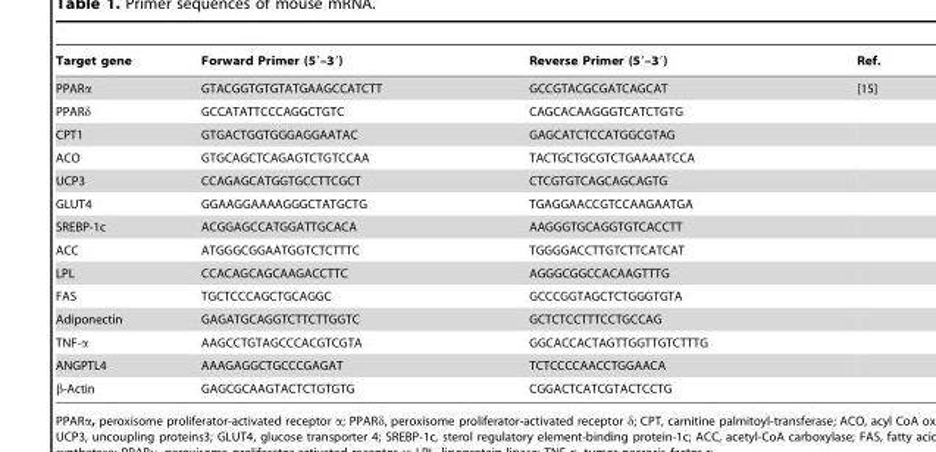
<table><thead><tr><td>Target gene</td><td>Forward Primer (5′–3′)</td><td>Reverse Primer (5′–3′)</td><td>Ref.</td></tr></thead><tbody><tr><td>PPARα</td><td>GTACGGTGTGTATGAAGCCATCTT</td><td>GCCGTACGCGATCAGCAT</td><td>[15]</td></tr><tr><td>PPARδ</td><td>GCCATATTCCCAGGCTGTC</td><td>CAGCACAAGGGTCATCTGTG</td><td></td></tr><tr><td>CPT1</td><td>GTGACTGGTGGGAGGAATAC</td><td>GAGCATCTCCATGGCGTAG</td><td></td></tr><tr><td>ACO</td><td>GTGCAGCTCAGAGTCTGTCCAA</td><td>TACTGCTGCGTCTGAAAATCCA</td><td></td></tr><tr><td>UCP3</td><td>CCAGAGCATGGTGCCTTCGCT</td><td>CTCGTGTCAGCAGCAGTG</td><td></td></tr><tr><td>GLUT4</td><td>GGAAGGAAAAGGGCTATGCTG</td><td>TGAGGAACCGTCCAAGAATGA</td><td></td></tr><tr><td>SREBP-1c</td><td>ACGGAGCCATGGATTGCACA</td><td>AAGGGTGCAGGTGTCACCTT</td><td></td></tr><tr><td>ACC</td><td>ATGGGCGGAATGGTCTCTTTC</td><td>TGGGGACCTTGTCTTCATCAT</td><td></td></tr><tr><td>LPL</td><td>CCACAGCAGCAAGACCTTC</td><td>AGGGCGGCCACAAGTTTG</td><td></td></tr><tr><td>FAS</td><td>TGCTCCCAGCTGCAGGC</td><td>GCCCGGTAGCTCTGGGTGTA</td><td></td></tr><tr><td>Adiponectin</td><td>GAGATGCAGGTCTTCTTGGTC</td><td>GCTCTCCTTTCCTGCCAG</td><td></td></tr><tr><td>TNF-α</td><td>AAGCCTGTAGCCCACGTCGTA</td><td>GGCACCACTAGTTGGTTGTCTTTG</td><td></td></tr><tr><td>ANGPTL4</td><td>AAAGAGGCTGCCCGAGAT</td><td>TCTCCCCAACCTGGAACA</td><td></td></tr><tr><td>β-Actin</td><td>GAGCGCAAGTACTCTGTGTG</td><td>CGGACTCATCGTACTCCTG</td><td></td></tr></tbody></table>